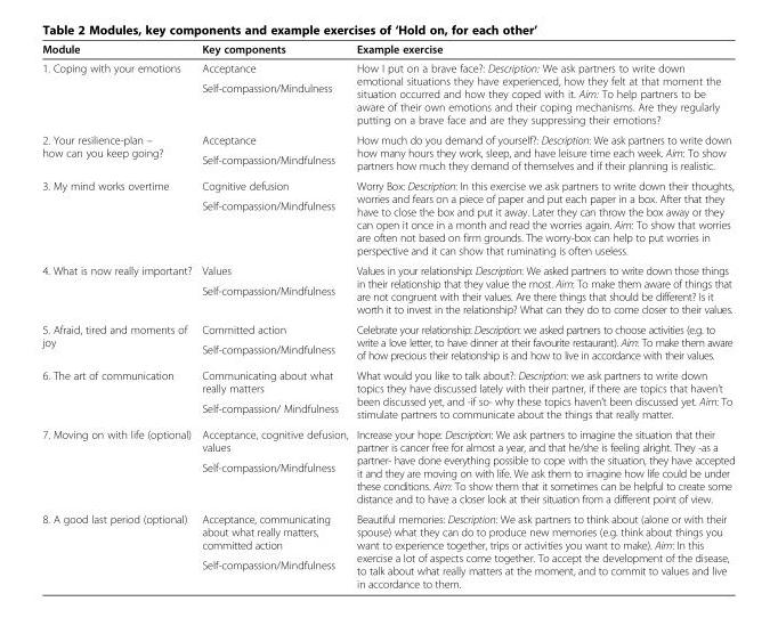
<table><thead><tr><td>Module</td><td>Key components</td><td>Example exercise</td></tr></thead><tbody><tr><td rowspan="2">1. Coping with your emotions</td><td>Acceptance</td><td rowspan="2">How I put on a brave face?: Description: We ask partners to write down emotional situations they have experienced, how they felt at that moment the situation occurred and how they coped with it. Aim: To help partners to be aware of their own emotions and their coping mechanisms. Are they regularly putting on a brave face and are they suppressing their emotions?</td></tr><tr><td>Self-compassion/Mindulness</td></tr><tr><td rowspan="2">2. Your resilience-plan – how can you keep going?</td><td>Acceptance</td><td rowspan="2">How much do you demand of yourself?: Description: We ask partners to write down how many hours they work, sleep, and have leisure time each week. Aim: To show partners how much they demand of themselves and if their planning is realistic.</td></tr><tr><td>Self-compassion/Mindfulness</td></tr><tr><td rowspan="2">3. My mind works overtime</td><td>Cognitive defusion</td><td rowspan="2">Worry Box: Description: In this exercise we ask partners to write down their thoughts, worries and fears on a piece of paper and put each paper in a box. After that they have to close the box and put it away. Later they can throw the box away or they can open it once in a month and read the worries again. Aim: To show that worries are often not based on firm grounds. The worry-box can help to put worries in perspective and it can show that ruminating is often useless.</td></tr><tr><td>Self-compassion/Mindfulness</td></tr><tr><td rowspan="2">4. What is now really important?</td><td>Values</td><td rowspan="2">Values in your relationship: Description: We asked partners to write down those things in their relationship that they value the most. Aim: To make them aware of things that are not congruent with their values. Are there things that should be different? Is it worth it to invest in the relationship? What can they do to come closer to their values.</td></tr><tr><td>Self-compassion/Mindfulness</td></tr><tr><td rowspan="2">5. Afraid, tired and moments of joy</td><td>Committed action</td><td rowspan="2">Celebrate your relationship: Description: we asked partners to choose activities (e.g. to write a love letter, to have dinner at their favourite restaurant). Aim: To make them aware of how precious their relationship is and how to live in accordance with their values.</td></tr><tr><td>Self-compassion/Mindfulness</td></tr><tr><td rowspan="2">6. The art of communication</td><td>Communicating about what really matters</td><td rowspan="2">What would you like to talk about?: Description: we ask partners to write down topics they have discussed lately with their partner, if there are topics that haven’t been discussed yet, and -if so- why these topics haven’t been discussed yet. Aim: To stimulate partners to communicate about the things that really matter.</td></tr><tr><td>Self-compassion/ Mindfulness</td></tr><tr><td rowspan="2">7. Moving on with life (optional)</td><td>Acceptance, cognitive defusion, values</td><td rowspan="2">Increase your hope: Description: We ask partners to imagine the situation that their partner is cancer free for almost a year, and that he/she is feeling alright. They -as a partner- have done everything possible to cope with the situation, they have accepted it and they are moving on with life. We ask them to imagine how life could be under these conditions. Aim: To show them that it sometimes can be helpful to create some distance and to have a closer look at their situation from a different point of view.</td></tr><tr><td>Self-compassion/Mindfulness</td></tr><tr><td rowspan="2">8. A good last period (optional)</td><td>Acceptance, communicating about what really matters, committed action</td><td rowspan="2">Beautiful memories: Description: We ask partners to think about (alone or with their spouse) what they can do to produce new memories (e.g. think about things you want to experience together, trips or activities you want to make). Aim: In this exercise a lot of aspects come together. To accept the development of the disease, to talk about what really matters at the moment, and to commit to values and live in accordance to them.</td></tr><tr><td>Self-compassion/Mindfulness</td></tr></tbody></table>